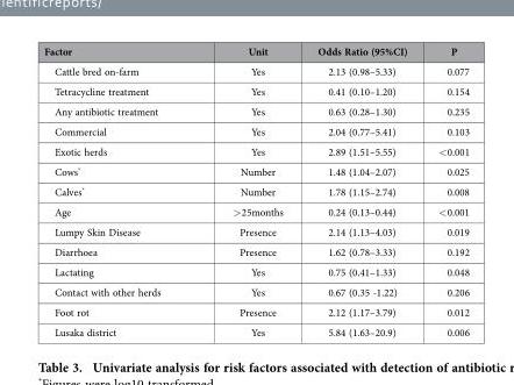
<table><thead><tr><td>Factor</td><td>Unit</td><td>Odds Ratio (95%CI)</td><td>P</td></tr></thead><tbody><tr><td>Cattle bred on-farm</td><td>Yes</td><td>2.13 (0.98–5.33)</td><td>0.077</td></tr><tr><td>Tetracycline treatment</td><td>Yes</td><td>0.41 (0.10–1.20)</td><td>0.154</td></tr><tr><td>Any antibiotic treatment</td><td>Yes</td><td>0.63 (0.28–1.30)</td><td>0.235</td></tr><tr><td>Commercial</td><td>Yes</td><td>2.04 (0.77–5.41)</td><td>0.103</td></tr><tr><td>Exotic herds</td><td>Yes</td><td>2.89 (1.51–5.55)</td><td>&lt; 0.001</td></tr><tr><td>Cows*</td><td>Number</td><td>1.48 (1.04–2.07)</td><td>0.025</td></tr><tr><td>Calves*</td><td>Number</td><td>1.78 (1.15–2.74)</td><td>0.008</td></tr><tr><td>Age</td><td>&gt; 25months</td><td>0.24 (0.13–0.44)</td><td>&lt; 0.001</td></tr><tr><td>Lumpy Skin Disease</td><td>Presence</td><td>2.14 (1.13–4.03)</td><td>0.019</td></tr><tr><td>Diarrhoea</td><td>Presence</td><td>1.62 (0.78–3.33)</td><td>0.192</td></tr><tr><td>Lactating</td><td>Yes</td><td>0.75 (0.41–1.33)</td><td>0.048</td></tr><tr><td>Contact with other herds</td><td>Yes</td><td>0.67 (0.35 -1.22)</td><td>0.206</td></tr><tr><td>Foot rot</td><td>Presence</td><td>2.12 (1.17–3.79)</td><td>0.012</td></tr><tr><td>Lusaka district</td><td>Yes</td><td>5.84 (1.63–20.9)</td><td>0.006</td></tr></tbody></table>